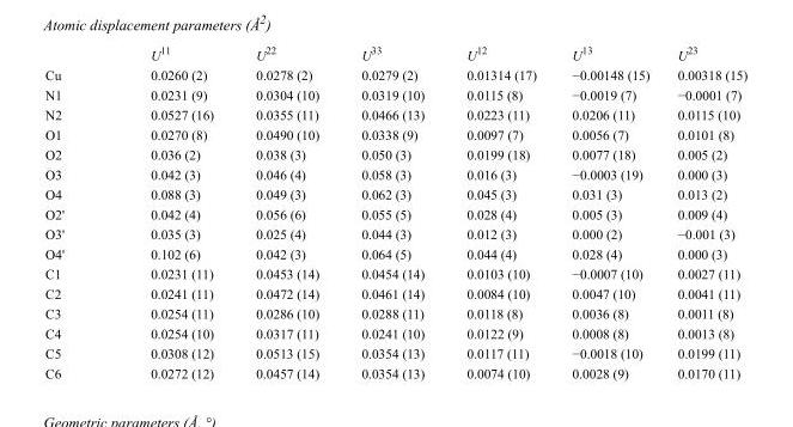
<table><thead><tr><td></td><td>U<sup>11</sup></td><td>U<sup>22</sup></td><td>U<sup>33</sup></td><td>U<sup>12</sup></td><td>U<sup>13</sup></td><td>U<sup>23</sup></td></tr></thead><tbody><tr><td>Cu</td><td>0.0260 (2)</td><td>0.0278 (2)</td><td>0.0279 (2)</td><td>0.01314 (17)</td><td>−0.00148 (15)</td><td>0.00318 (15)</td></tr><tr><td>N1</td><td>0.0231 (9)</td><td>0.0304 (10)</td><td>0.0319 (10)</td><td>0.0115 (8)</td><td>−0.0019 (7)</td><td>−0.0001 (7)</td></tr><tr><td>N2</td><td>0.0527 (16)</td><td>0.0355 (11)</td><td>0.0466 (13)</td><td>0.0223 (11)</td><td>0.0206 (11)</td><td>0.0115 (10)</td></tr><tr><td>O1</td><td>0.0270 (8)</td><td>0.0490 (10)</td><td>0.0338 (9)</td><td>0.0097 (7)</td><td>0.0056 (7)</td><td>0.0101 (8)</td></tr><tr><td>O2</td><td>0.036 (2)</td><td>0.038 (3)</td><td>0.050 (3)</td><td>0.0199 (18)</td><td>0.0077 (18)</td><td>0.005 (2)</td></tr><tr><td>O3</td><td>0.042 (3)</td><td>0.046 (4)</td><td>0.058 (3)</td><td>0.016 (3)</td><td>−0.0003 (19)</td><td>0.000 (3)</td></tr><tr><td>O4</td><td>0.088 (3)</td><td>0.049 (3)</td><td>0.062 (3)</td><td>0.045 (3)</td><td>0.031 (3)</td><td>0.013 (2)</td></tr><tr><td>O2&#x27;</td><td>0.042 (4)</td><td>0.056 (6)</td><td>0.055 (5)</td><td>0.028 (4)</td><td>0.005 (3)</td><td>0.009 (4)</td></tr><tr><td>O3&#x27;</td><td>0.035 (3)</td><td>0.025 (4)</td><td>0.044 (3)</td><td>0.012 (3)</td><td>0.000 (2)</td><td>−0.001 (3)</td></tr><tr><td>O4&#x27;</td><td>0.102 (6)</td><td>0.042 (3)</td><td>0.064 (5)</td><td>0.044 (4)</td><td>0.028 (4)</td><td>0.000 (3)</td></tr><tr><td>C1</td><td>0.0231 (11)</td><td>0.0453 (14)</td><td>0.0454 (14)</td><td>0.0103 (10)</td><td>−0.0007 (10)</td><td>0.0027 (11)</td></tr><tr><td>C2</td><td>0.0241 (11)</td><td>0.0472 (14)</td><td>0.0461 (14)</td><td>0.0084 (10)</td><td>0.0047 (10)</td><td>0.0041 (11)</td></tr><tr><td>C3</td><td>0.0254 (11)</td><td>0.0286 (10)</td><td>0.0288 (11)</td><td>0.0118 (8)</td><td>0.0036 (8)</td><td>0.0011 (8)</td></tr><tr><td>C4</td><td>0.0254 (10)</td><td>0.0317 (11)</td><td>0.0241 (10)</td><td>0.0122 (9)</td><td>0.0008 (8)</td><td>0.0013 (8)</td></tr><tr><td>C5</td><td>0.0308 (12)</td><td>0.0513 (15)</td><td>0.0354 (13)</td><td>0.0117 (11)</td><td>−0.0018 (10)</td><td>0.0199 (11)</td></tr><tr><td>C6</td><td>0.0272 (12)</td><td>0.0457 (14)</td><td>0.0354 (13)</td><td>0.0074 (10)</td><td>0.0028 (9)</td><td>0.0170 (11)</td></tr></tbody></table>